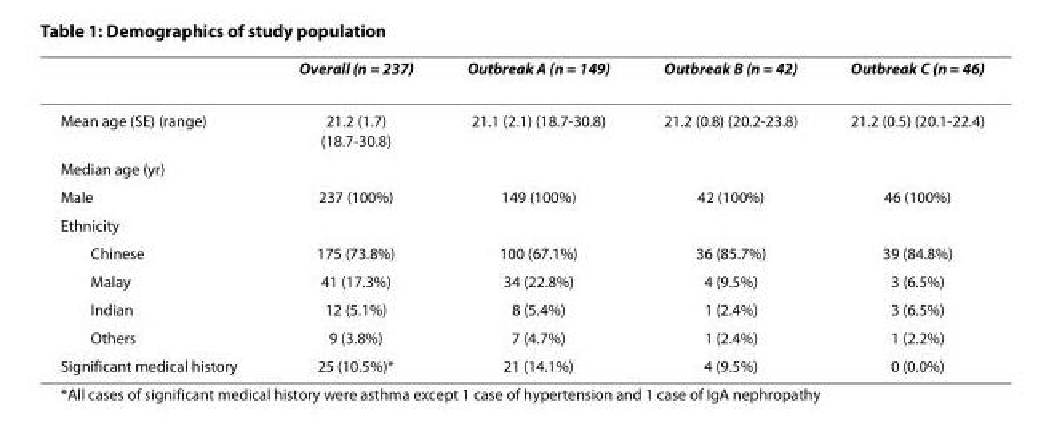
<table><thead><tr><td></td><td>Overall (n = 237)</td><td>Outbreak A (n = 149)</td><td>Outbreak B (n = 42)</td><td>Outbreak C (n = 46)</td></tr></thead><tbody><tr><td>Mean age (SE) (range)</td><td>21.2 (1.7) (18.7-30.8)</td><td>21.1 (2.1) (18.7-30.8)</td><td>21.2 (0.8) (20.2-23.8)</td><td>21.2 (0.5) (20.1-22.4)</td></tr><tr><td colspan="5">Median age (yr)</td></tr><tr><td>Male</td><td>237 (100%)</td><td>149 (100%)</td><td>42 (100%)</td><td>46 (100%)</td></tr><tr><td colspan="5">Ethnicity</td></tr><tr><td>Chinese</td><td>175 (73.8%)</td><td>100 (67.1%)</td><td>36 (85.7%)</td><td>39 (84.8%)</td></tr><tr><td>Malay</td><td>41 (17.3%)</td><td>34 (22.8%)</td><td>4 (9.5%)</td><td>3 (6.5%)</td></tr><tr><td>Indian</td><td>12 (5.1%)</td><td>8 (5.4%)</td><td>1 (2.4%)</td><td>3 (6.5%)</td></tr><tr><td>Others</td><td>9 (3.8%)</td><td>7 (4.7%)</td><td>1 (2.4%)</td><td>1 (2.2%)</td></tr><tr><td>Significant medical history</td><td>25 (10.5%)*</td><td>21 (14.1%)</td><td>4 (9.5%)</td><td>0 (0.0%)</td></tr></tbody></table>